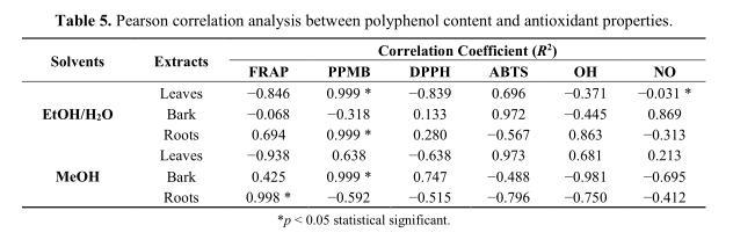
<table><thead><tr><td rowspan="2">Solvents</td><td rowspan="2">Extracts</td><td colspan="6">Correlation Coefficient (R<sup>2</sup>)</td></tr><tr><td>FRAP</td><td>PPMB</td><td>DPPH</td><td>ABTS</td><td>OH</td><td>NO</td></tr></thead><tbody><tr><td rowspan="3">EtOH/H<sub>2</sub>O</td><td>Leaves</td><td>−0.846</td><td>0.999 *</td><td>−0.839</td><td>0.696</td><td>−0.371</td><td>−0.031 *</td></tr><tr><td>Bark</td><td>−0.068</td><td>−0.318</td><td>0.133</td><td>0.972</td><td>−0.445</td><td>0.869</td></tr><tr><td>Roots</td><td>0.694</td><td>0.999 *</td><td>0.280</td><td>−0.567</td><td>0.863</td><td>−0.313</td></tr><tr><td rowspan="3">MeOH</td><td>Leaves</td><td>−0.938</td><td>0.638</td><td>−0.638</td><td>0.973</td><td>0.681</td><td>0.213</td></tr><tr><td>Bark</td><td>0.425</td><td>0.999 *</td><td>0.747</td><td>−0.488</td><td>−0.981</td><td>−0.695</td></tr><tr><td>Roots</td><td>0.998 *</td><td>−0.592</td><td>−0.515</td><td>−0.796</td><td>−0.750</td><td>−0.412</td></tr></tbody></table>